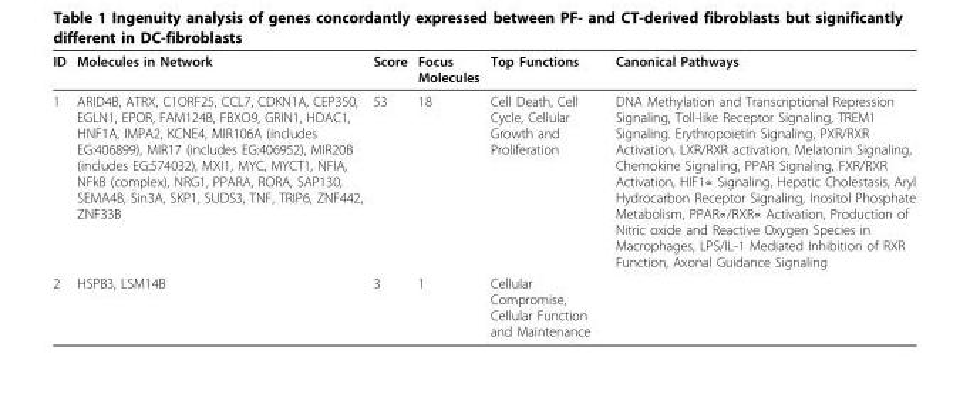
<table><thead><tr><td>ID</td><td>Molecules in Network</td><td>Score</td><td>Focus Molecules</td><td>Top Functions</td><td>Canonical Pathways</td></tr></thead><tbody><tr><td>1</td><td>ARID4B, ATRX, C1ORF25, CCL7, CDKN1A, CEP350, EGLN1, EPOR, FAM124B, FBXO9, GRIN1, HDAC1, HNF1A, IMPA2, KCNE4, MIR106A (includes EG:406899), MIR17 (includes EG:406952), MIR20B (includes EG:574032), MXI1, MYC, MYCT1, NFIA, NFkB (complex), NRG1, PPARA, RORA, SAP130, SEMA4B, Sin3A, SKP1, SUDS3, TNF, TRIP6, ZNF442, ZNF33B</td><td>53</td><td>18</td><td>Cell Death, Cell Cycle, Cellular Growth and Proliferation</td><td>DNA Methylation and Transcriptional Repression Signaling, Toll-like Receptor Signaling, TREM1 Signaling. Erythropoietin Signaling, PXR/RXR Activation, LXR/RXR activation, Melatonin Signaling, Chemokine Signaling, PPAR Signaling, FXR/RXR Activation, HIF1∝ Signaling, Hepatic Cholestasis, Aryl Hydrocarbon Receptor Signaling, Inositol Phosphate Metabolism, PPAR∝/RXR∝ Activation, Production of Nitric oxide and Reactive Oxygen Species in Macrophages, LPS/IL-1 Mediated Inhibition of RXR Function, Axonal Guidance Signaling</td></tr><tr><td>2</td><td>HSPB3, LSM14B</td><td>3</td><td>1</td><td>Cellular Compromise, Cellular Function and Maintenance</td><td></td></tr></tbody></table>